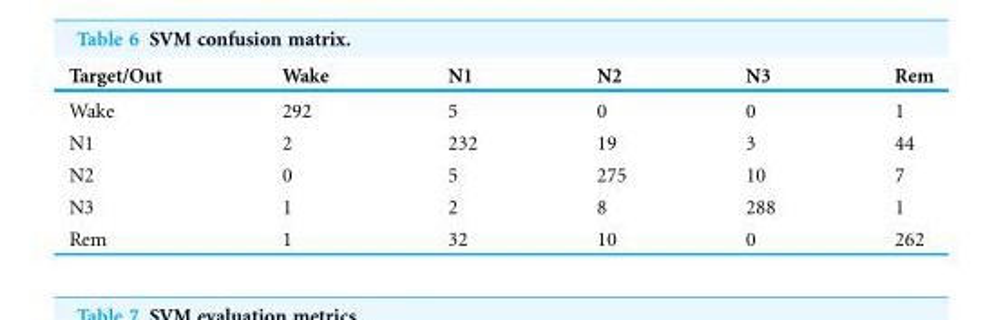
<table><thead><tr><td>Target/Out</td><td>Wake</td><td>N1</td><td>N2</td><td>N3</td><td>Rem</td></tr></thead><tbody><tr><td>Wake</td><td>292</td><td>5</td><td>0</td><td>0</td><td>1</td></tr><tr><td>N1</td><td>2</td><td>232</td><td>19</td><td>3</td><td>44</td></tr><tr><td>N2</td><td>0</td><td>5</td><td>275</td><td>10</td><td>7</td></tr><tr><td>N3</td><td>1</td><td>2</td><td>8</td><td>288</td><td>1</td></tr><tr><td>Rem</td><td>1</td><td>32</td><td>10</td><td>0</td><td>262</td></tr></tbody></table>